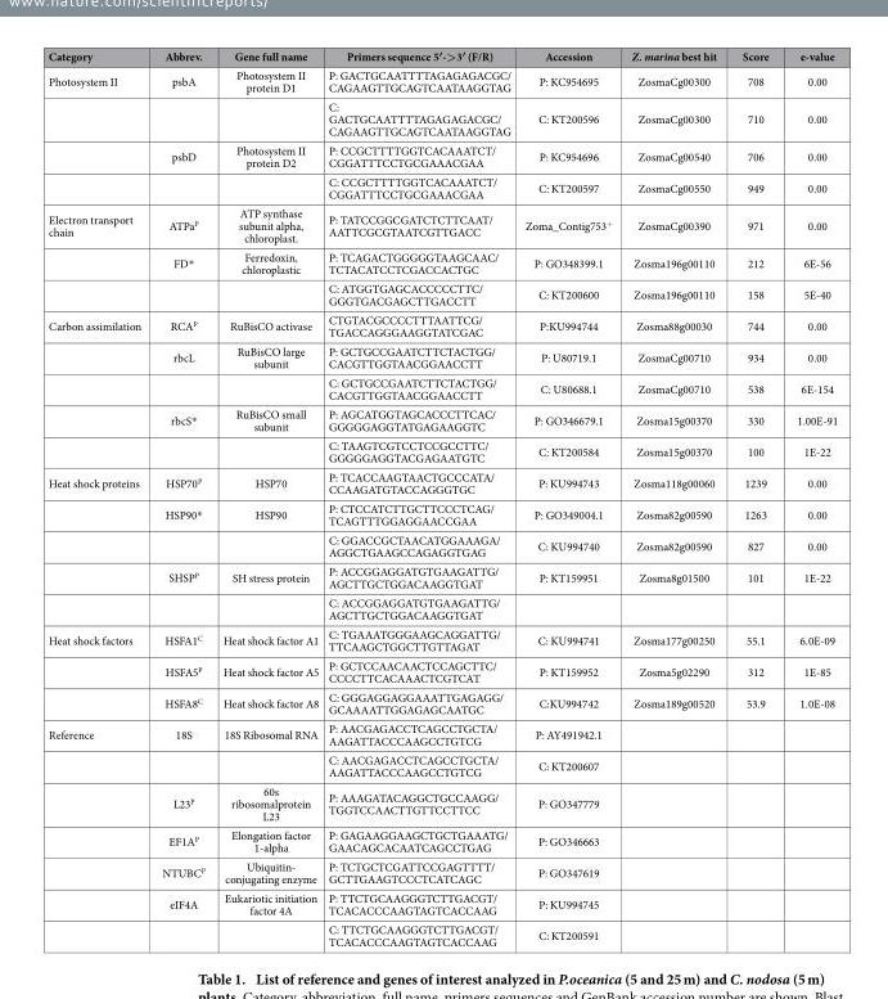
<table><thead><tr><td>Category</td><td>Abbrev.</td><td>Gene full name</td><td>Primers sequence 5′-&gt;3′ (F/R)</td><td>Accession</td><td>Z. marina best hit</td><td>Score</td><td>e-value</td></tr></thead><tbody><tr><td rowspan="4">Photosystem II</td><td>psbA</td><td>Photosystem II protein D1</td><td>P: GACTGCAATTTTAGAGAGACGC/ CAGAAGTTGCAGTCAATAAGGTAG</td><td>P: KC954695</td><td>ZosmaCg00300</td><td>708</td><td>0.00</td></tr><tr><td></td><td></td><td>C: GACTGCAATTTTAGAGAGACGC/ CAGAAGTTGCAGTCAATAAGGTAG</td><td>C: KT200596</td><td>ZosmaCg00300</td><td>710</td><td>0.00</td></tr><tr><td>psbD</td><td>Photosystem II protein D2</td><td>P: CCGCTTTTGGTCACAAATCT/ CGGATTTCCTGCGAAACGAA</td><td>P: KC954696</td><td>ZosmaCg00540</td><td>706</td><td>0.00</td></tr><tr><td></td><td></td><td>C: CCGCTTTTGGTCACAAATCT/ CGGATTTCCTGCGAAACGAA</td><td>C: KT200597</td><td>ZosmaCg00550</td><td>949</td><td>0.00</td></tr><tr><td rowspan="3">Electron transport chain</td><td>ATPa<sup>P</sup></td><td>ATP synthase subunit alpha, chloroplast.</td><td>P: TATCCGGCGATCTCTTCAAT/ AATTCGCGTAATCGTTGACC</td><td>Zoma_Contig753<sup>+</sup></td><td>ZosmaCg00390</td><td>971</td><td>0.00</td></tr><tr><td>FD*</td><td>Ferredoxin, chloroplastic</td><td>P: TCAGACTGGGGGTAAGCAAC/ TCTACATCCTCGACCACTGC</td><td>P: GO348399.1</td><td>Zosma196g00110</td><td>212</td><td>6E-56</td></tr><tr><td></td><td></td><td>C: ATGGTGAGCACCCCCTTC/ GGGTGACGAGCTTGACCTT</td><td>C: KT200600</td><td>Zosma196g00110</td><td>158</td><td>5E-40</td></tr><tr><td rowspan="5">Carbon assimilation</td><td>RCA<sup>P</sup></td><td>RuBisCO activase</td><td>CTGTACGCCCCTTTAATTCG/ TGACCAGGGAAGGTATCGAC</td><td>P:KU994744</td><td>Zosma88g00030</td><td>744</td><td>0.00</td></tr><tr><td>rbcL</td><td>RuBisCO large subunit</td><td>P: GCTGCCGAATCTTCTACTGG/ CACGTTGGTAACGGAACCTT</td><td>P: U80719.1</td><td>ZosmaCg00710</td><td>934</td><td>0.00</td></tr><tr><td></td><td></td><td>C: GCTGCCGAATCTTCTACTGG/ CACGTTGGTAACGGAACCTT</td><td>C: U80688.1</td><td>ZosmaCg00710</td><td>538</td><td>6E-154</td></tr><tr><td>rbcS*</td><td>RuBisCO small subunit</td><td>P: AGCATGGTAGCACCCTTCAC/ GGGGGAGGTATGAGAAGGTC</td><td>P: GO346679.1</td><td>Zosma15g00370</td><td>330</td><td>1.00E-91</td></tr><tr><td></td><td></td><td>C: TAAGTCGTCCTCCGCCTTC/ GGGGGAGGTACGAGAATGTC</td><td>C: KT200584</td><td>Zosma15g00370</td><td>100</td><td>1E-22</td></tr><tr><td rowspan="5">Heat shock proteins</td><td>HSP70<sup>P</sup></td><td>HSP70</td><td>P: TCACCAAGTAACTGCCCATA/ CCAAGATGTACCAGGGTGC</td><td>P: KU994743</td><td>Zosma118g00060</td><td>1239</td><td>0.00</td></tr><tr><td>HSP90*</td><td>HSP90</td><td>P: CTCCATCTTGCTTCCCTCAG/ TCAGTTTGGAGGAACCGAA</td><td>P: GO349004.1</td><td>Zosma82g00590</td><td>1263</td><td>0.00</td></tr><tr><td></td><td></td><td>C: GGACCGCTAACATGGAAAGA/ AGGCTGAAGCCAGAGGTGAG</td><td>C: KU994740</td><td>Zosma82g00590</td><td>827</td><td>0.00</td></tr><tr><td>SHSP<sup>P</sup></td><td>SH stress protein</td><td>P: ACCGGAGGATGTGAAGATTG/ AGCTTGCTGGACAAGGTGAT</td><td>P: KT159951</td><td>Zosma8g01500</td><td>101</td><td>1E-22</td></tr><tr><td></td><td></td><td>C: ACCGGAGGATGTGAAGATTG/ AGCTTGCTGGACAAGGTGAT</td><td></td><td></td><td></td><td></td></tr><tr><td rowspan="3">Heat shock factors</td><td>HSFA1<sup>C</sup></td><td>Heat shock factor A1</td><td>C: TGAAATGGGAAGCAGGATTG/ TTCAAGCTGGCTTGTTAGAT</td><td>C: KU994741</td><td>Zosma177g00250</td><td>55.1</td><td>6.0E-09</td></tr><tr><td>HSFA5<sup>P</sup></td><td>Heat shock factor A5</td><td>P: GCTCCAACAACTCCAGCTTC/ CCCCTTCACAAACTCGTCAT</td><td>P: KT159952</td><td>Zosma5g02290</td><td>312</td><td>1E-85</td></tr><tr><td>HSFA8<sup>C</sup></td><td>Heat shock factor A8</td><td>C: GGGAGGAGGAAATTGAGAGG/ GCAAAATTGGAGAGCAATGC</td><td>C:KU994742</td><td>Zosma189g00520</td><td>53.9</td><td>1.0E-08</td></tr><tr><td rowspan="7">Reference</td><td>18S</td><td>18S Ribosomal RNA</td><td>P: AACGAGACCTCAGCCTGCTA/ AAGATTACCCAAGCCTGTCG</td><td>P: AY491942.1</td><td></td><td></td><td></td></tr><tr><td></td><td></td><td>C: AACGAGACCTCAGCCTGCTA/ AAGATTACCCAAGCCTGTCG</td><td>C: KT200607</td><td></td><td></td><td></td></tr><tr><td>L23<sup>P</sup></td><td>60s ribosomalprotein L23</td><td>P: AAAGATACAGGCTGCCAAGG/ TGGTCCAACTTGTTCCTTCC</td><td>P: GO347779</td><td></td><td></td><td></td></tr><tr><td>EF1A<sup>P</sup></td><td>Elongation factor 1-alpha</td><td>P: GAGAAGGAAGCTGCTGAAATG/ GAACAGCACAATCAGCCTGAG</td><td>P: GO346663</td><td></td><td></td><td></td></tr><tr><td>NTUBC<sup>P</sup></td><td>Ubiquitin- conjugating enzyme</td><td>P: TCTGCTCGATTCCGAGTTTT/ GCTTGAAGTCCCTCATCAGC</td><td>P: GO347619</td><td></td><td></td><td></td></tr><tr><td>eIF4A</td><td>Eukariotic initiation factor 4A</td><td>P: TTCTGCAAGGGTCTTGACGT/ TCACACCCAAGTAGTCACCAAG</td><td>P: KU994745</td><td></td><td></td><td></td></tr><tr><td></td><td></td><td>C: TTCTGCAAGGGTCTTGACGT/ TCACACCCAAGTAGTCACCAAG</td><td>C: KT200591</td><td></td><td></td><td></td></tr></tbody></table>